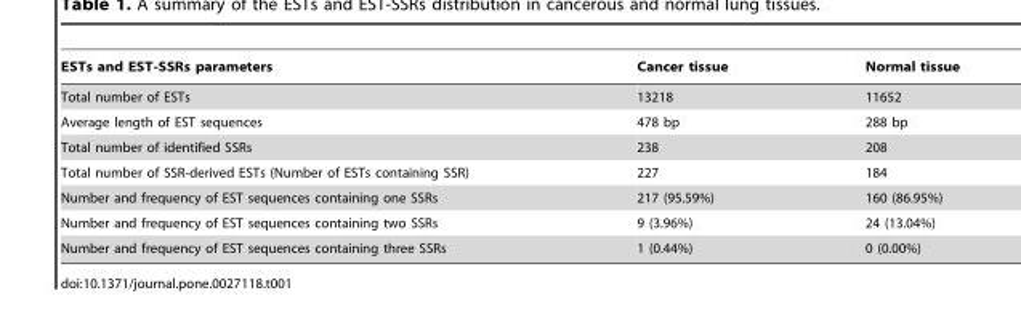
<table><thead><tr><td>ESTs and EST-SSRs parameters</td><td>Cancer tissue</td><td>Normal tissue</td></tr></thead><tbody><tr><td>Total number of ESTs</td><td>13218</td><td>11652</td></tr><tr><td>Average length of EST sequences</td><td>478 bp</td><td>288 bp</td></tr><tr><td>Total number of identified SSRs</td><td>238</td><td>208</td></tr><tr><td>Total number of SSR-derived ESTs (Number of ESTs containing SSR)</td><td>227</td><td>184</td></tr><tr><td>Number and frequency of EST sequences containing one SSRs</td><td>217 (95.59%)</td><td>160 (86.95%)</td></tr><tr><td>Number and frequency of EST sequences containing two SSRs</td><td>9 (3.96%)</td><td>24 (13.04%)</td></tr><tr><td>Number and frequency of EST sequences containing three SSRs</td><td>1 (0.44%)</td><td>0 (0.00%)</td></tr></tbody></table>